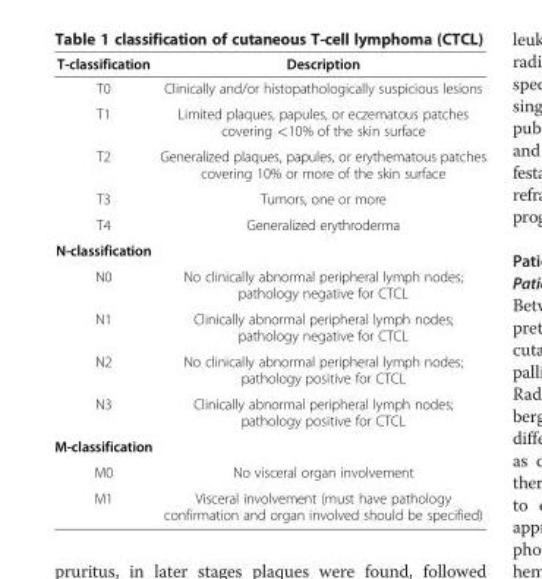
<table><thead><tr><td>T-classification</td><td>Description</td></tr></thead><tbody><tr><td>T0</td><td>Clinically and/or histopathologically suspicious lesions</td></tr><tr><td>T1</td><td>Limited plaques, papules, or eczematous patches covering &lt;10% of the skin surface</td></tr><tr><td>T2</td><td>Generalized plaques, papules, or erythematous patches covering 10% or more of the skin surface</td></tr><tr><td>T3</td><td>Tumors, one or more</td></tr><tr><td>T4</td><td>Generalized erythroderma</td></tr><tr><td colspan="2">N-classification</td></tr><tr><td>N0</td><td>No clinically abnormal peripheral lymph nodes; pathology negative for CTCL</td></tr><tr><td>N1</td><td>Clinically abnormal peripheral lymph nodes; pathology negative for CTCL</td></tr><tr><td>N2</td><td>No clinically abnormal peripheral lymph nodes; pathology positive for CTCL</td></tr><tr><td>N3</td><td>Clinically abnormal peripheral lymph nodes; pathology positive for CTCL</td></tr><tr><td colspan="2">M-classification</td></tr><tr><td>M0</td><td>No visceral organ involvement</td></tr><tr><td>M1</td><td>Visceral involvement (must have pathology confirmation and organ involved should be specified)</td></tr></tbody></table>